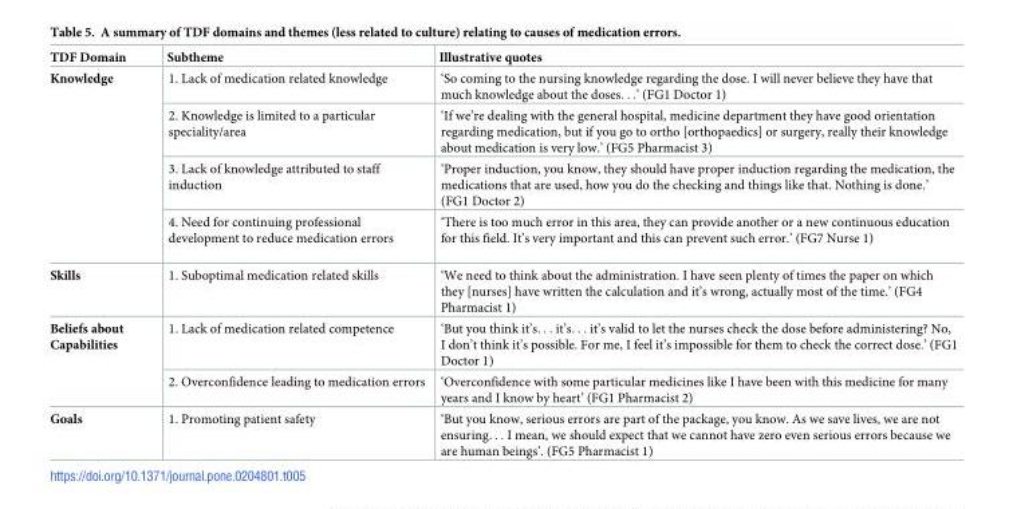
<table><thead><tr><td>TDF Domain</td><td>Subtheme</td><td>Illustrative quotes</td></tr></thead><tbody><tr><td rowspan="4">Knowledge</td><td>1. Lack of medication related knowledge</td><td>‘So coming to the nursing knowledge regarding the dose. I will never believe they have that much knowledge about the doses. . .’ (FG1 Doctor 1)</td></tr><tr><td>2. Knowledge is limited to a particular speciality/area</td><td>‘If we’re dealing with the general hospital, medicine department they have good orientation regarding medication, but if you go to ortho [orthopaedics] or surgery, really their knowledge about medication is very low.’ (FG5 Pharmacist 3)</td></tr><tr><td>3. Lack of knowledge attributed to staff induction</td><td>‘Proper induction, you know, they should have proper induction regarding the medication, the medications that are used, how you do the checking and things like that. Nothing is done.’ (FG1 Doctor 2)</td></tr><tr><td>4. Need for continuing professional development to reduce medication errors</td><td>‘There is too much error in this area, they can provide another or a new continuous education for this field. It’s very important and this can prevent such error.’ (FG7 Nurse 1)</td></tr><tr><td>Skills</td><td>1. Suboptimal medication related skills</td><td>‘We need to think about the administration. I have seen plenty of times the paper on which they [nurses] have written the calculation and it’s wrong, actually most of the time.’ (FG4 Pharmacist 1)</td></tr><tr><td rowspan="2">Beliefs about Capabilities</td><td>1. Lack of medication related competence</td><td>‘But you think it’s. . . it’s. . . it’s valid to let the nurses check the dose before administering? No, I don’t think it’s possible. For me, I feel it’s impossible for them to check the correct dose.’ (FG1 Doctor 1)</td></tr><tr><td>2. Overconfidence leading to medication errors</td><td>‘Overconfidence with some particular medicines like I have been with this medicine for many years and I know by heart’ (FG1 Pharmacist 2)</td></tr><tr><td>Goals</td><td>1. Promoting patient safety</td><td>‘But you know, serious errors are part of the package, you know. As we save lives, we are not ensuring. . . I mean, we should expect that we cannot have zero even serious errors because we are human beings’. (FG5 Pharmacist 1)</td></tr></tbody></table>